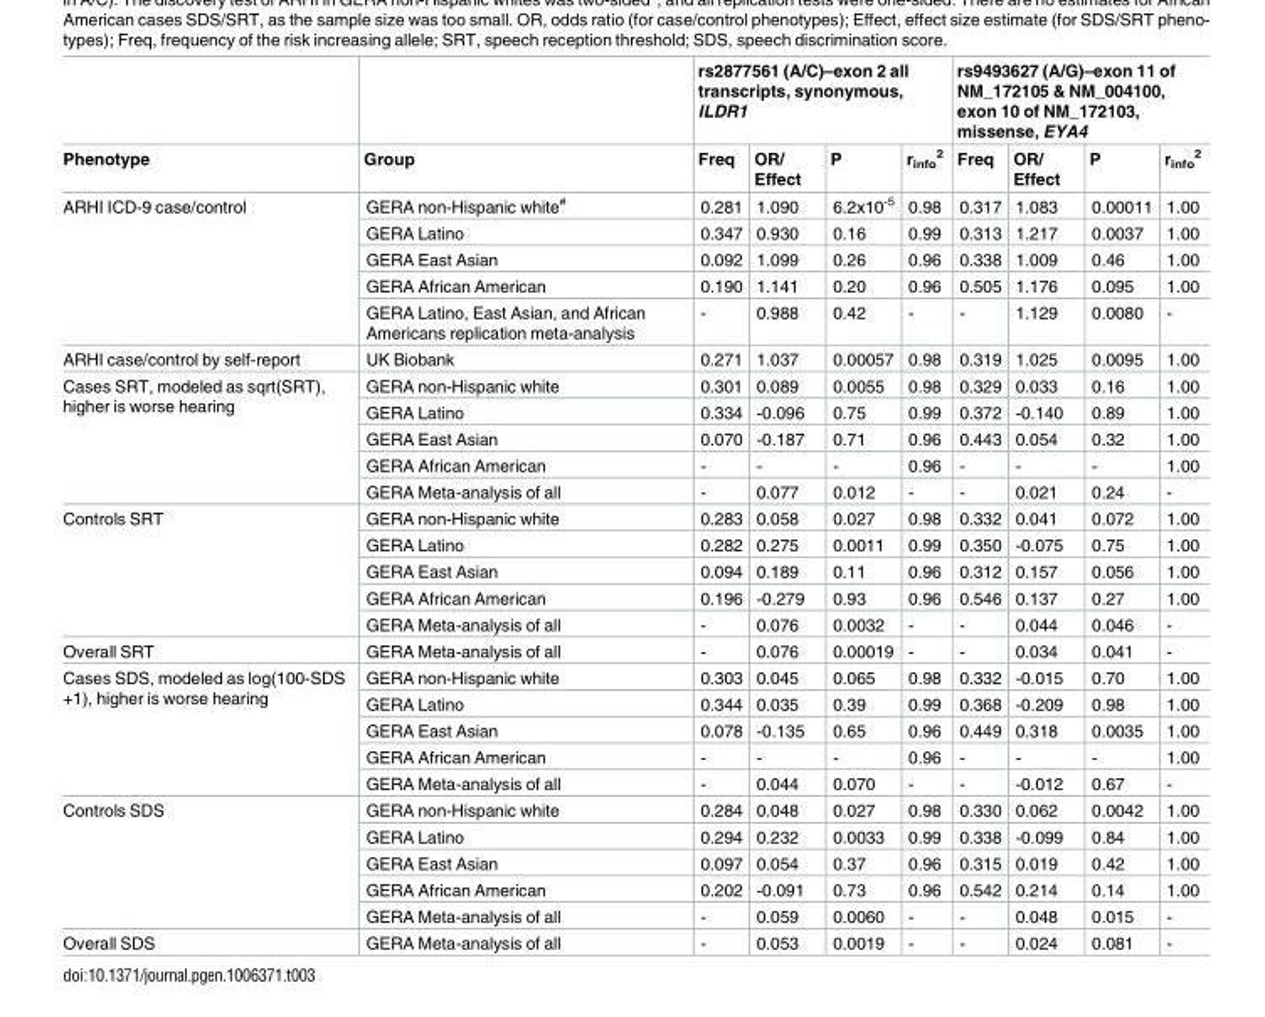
<table><thead><tr><td rowspan="2">Phenotype</td><td rowspan="2">Group</td><td colspan="4">rs2877561 (A/C)–exon 2 all transcripts, synonymous, ILDR1</td><td colspan="4">rs9493627 (A/G)–exon 11 of NM_172105 &amp; NM_004100, exon 10 of NM_172103, missense, EYA4</td></tr><tr><td>Freq</td><td>OR/ Effect</td><td>P</td><td>r<sub>info</sub> <sup>2</sup></td><td>Freq</td><td>OR/ Effect</td><td>P</td><td>r<sub>info</sub> <sup>2</sup></td></tr></thead><tbody><tr><td rowspan="5">ARHI ICD-9 case/control</td><td>GERA non-Hispanic white<sup>#</sup></td><td>0.281</td><td>1.090</td><td>6.2x10<sup>-5</sup></td><td>0.98</td><td>0.317</td><td>1.083</td><td>0.00011</td><td>1.00</td></tr><tr><td>GERA Latino</td><td>0.347</td><td>0.930</td><td>0.16</td><td>0.99</td><td>0.313</td><td>1.217</td><td>0.0037</td><td>1.00</td></tr><tr><td>GERA East Asian</td><td>0.092</td><td>1.099</td><td>0.26</td><td>0.96</td><td>0.338</td><td>1.009</td><td>0.46</td><td>1.00</td></tr><tr><td>GERA African American</td><td>0.190</td><td>1.141</td><td>0.20</td><td>0.96</td><td>0.505</td><td>1.176</td><td>0.095</td><td>1.00</td></tr><tr><td>GERA Latino, East Asian, and African Americans replication meta-analysis</td><td>-</td><td>0.988</td><td>0.42</td><td>-</td><td>-</td><td>1.129</td><td>0.0080</td><td>-</td></tr><tr><td>ARHI case/control by self-report</td><td>UK Biobank</td><td>0.271</td><td>1.037</td><td>0.00057</td><td>0.98</td><td>0.319</td><td>1.025</td><td>0.0095</td><td>1.00</td></tr><tr><td rowspan="5">Cases SRT, modeled as sqrt(SRT), higher is worse hearing</td><td>GERA non-Hispanic white</td><td>0.301</td><td>0.089</td><td>0.0055</td><td>0.98</td><td>0.329</td><td>0.033</td><td>0.16</td><td>1.00</td></tr><tr><td>GERA Latino</td><td>0.334</td><td>-0.096</td><td>0.75</td><td>0.99</td><td>0.372</td><td>-0.140</td><td>0.89</td><td>1.00</td></tr><tr><td>GERA East Asian</td><td>0.070</td><td>-0.187</td><td>0.71</td><td>0.96</td><td>0.443</td><td>0.054</td><td>0.32</td><td>1.00</td></tr><tr><td>GERA African American</td><td>-</td><td>-</td><td>-</td><td>0.96</td><td>-</td><td>-</td><td>-</td><td>1.00</td></tr><tr><td>GERA Meta-analysis of all</td><td>-</td><td>0.077</td><td>0.012</td><td>-</td><td>-</td><td>0.021</td><td>0.24</td><td>-</td></tr><tr><td rowspan="5">Controls SRT</td><td>GERA non-Hispanic white</td><td>0.283</td><td>0.058</td><td>0.027</td><td>0.98</td><td>0.332</td><td>0.041</td><td>0.072</td><td>1.00</td></tr><tr><td>GERA Latino</td><td>0.282</td><td>0.275</td><td>0.0011</td><td>0.99</td><td>0.350</td><td>-0.075</td><td>0.75</td><td>1.00</td></tr><tr><td>GERA East Asian</td><td>0.094</td><td>0.189</td><td>0.11</td><td>0.96</td><td>0.312</td><td>0.157</td><td>0.056</td><td>1.00</td></tr><tr><td>GERA African American</td><td>0.196</td><td>-0.279</td><td>0.93</td><td>0.96</td><td>0.546</td><td>0.137</td><td>0.27</td><td>1.00</td></tr><tr><td>GERA Meta-analysis of all</td><td>-</td><td>0.076</td><td>0.0032</td><td>-</td><td>-</td><td>0.044</td><td>0.046</td><td>-</td></tr><tr><td>Overall SRT</td><td>GERA Meta-analysis of all</td><td>-</td><td>0.076</td><td>0.00019</td><td>-</td><td>-</td><td>0.034</td><td>0.041</td><td>-</td></tr><tr><td rowspan="5">Cases SDS, modeled as log(100-SDS +1), higher is worse hearing</td><td>GERA non-Hispanic white</td><td>0.303</td><td>0.045</td><td>0.065</td><td>0.98</td><td>0.332</td><td>-0.015</td><td>0.70</td><td>1.00</td></tr><tr><td>GERA Latino</td><td>0.344</td><td>0.035</td><td>0.39</td><td>0.99</td><td>0.368</td><td>-0.209</td><td>0.98</td><td>1.00</td></tr><tr><td>GERA East Asian</td><td>0.078</td><td>-0.135</td><td>0.65</td><td>0.96</td><td>0.449</td><td>0.318</td><td>0.0035</td><td>1.00</td></tr><tr><td>GERA African American</td><td>-</td><td>-</td><td>-</td><td>0.96</td><td>-</td><td>-</td><td>-</td><td>1.00</td></tr><tr><td>GERA Meta-analysis of all</td><td>-</td><td>0.044</td><td>0.070</td><td>-</td><td>-</td><td>-0.012</td><td>0.67</td><td>-</td></tr><tr><td rowspan="5">Controls SDS</td><td>GERA non-Hispanic white</td><td>0.284</td><td>0.048</td><td>0.027</td><td>0.98</td><td>0.330</td><td>0.062</td><td>0.0042</td><td>1.00</td></tr><tr><td>GERA Latino</td><td>0.294</td><td>0.232</td><td>0.0033</td><td>0.99</td><td>0.338</td><td>-0.099</td><td>0.84</td><td>1.00</td></tr><tr><td>GERA East Asian</td><td>0.097</td><td>0.054</td><td>0.37</td><td>0.96</td><td>0.315</td><td>0.019</td><td>0.42</td><td>1.00</td></tr><tr><td>GERA African American</td><td>0.202</td><td>-0.091</td><td>0.73</td><td>0.96</td><td>0.542</td><td>0.214</td><td>0.14</td><td>1.00</td></tr><tr><td>GERA Meta-analysis of all</td><td>-</td><td>0.059</td><td>0.0060</td><td>-</td><td>-</td><td>0.048</td><td>0.015</td><td>-</td></tr><tr><td>Overall SDS</td><td>GERA Meta-analysis of all</td><td>-</td><td>0.053</td><td>0.0019</td><td>-</td><td>-</td><td>0.024</td><td>0.081</td><td>-</td></tr></tbody></table>